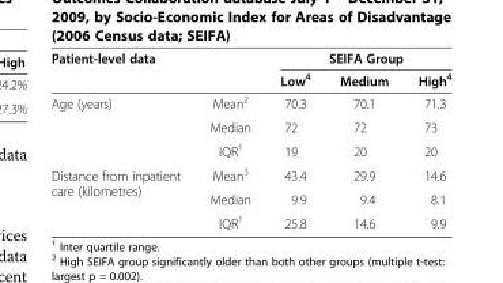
<table><thead><tr><td rowspan="2">Patient-level data</td><td rowspan="2"></td><td colspan="3">SEIFA Group</td></tr><tr><td>Low<sup>4</sup></td><td>Medium</td><td>High<sup>4</sup></td></tr></thead><tbody><tr><td rowspan="3">Age (years)</td><td>Mean<sup>2</sup></td><td>70.3</td><td>70.1</td><td>71.3</td></tr><tr><td>Median</td><td>72</td><td>72</td><td>73</td></tr><tr><td>IQR<sup>1</sup></td><td>19</td><td>20</td><td>20</td></tr><tr><td rowspan="3">Distance from inpatient care (kilometres)</td><td>Mean<sup>3</sup></td><td>43.4</td><td>29.9</td><td>14.6</td></tr><tr><td>Median</td><td>9.9</td><td>9.4</td><td>8.1</td></tr><tr><td>IQR<sup>1</sup></td><td>25.8</td><td>14.6</td><td>9.9</td></tr></tbody></table>